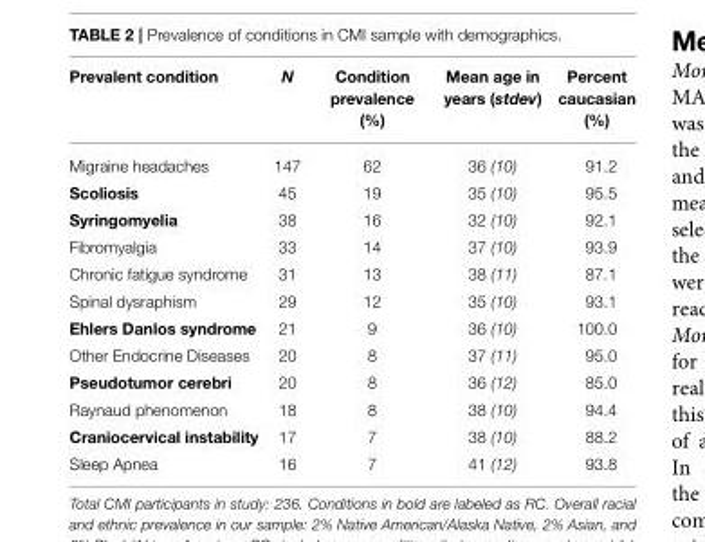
<table><thead><tr><td>Prevalent condition</td><td>N</td><td>Condition prevalence (%)</td><td>Mean age in years (stdev)</td><td>Percent caucasian (%)</td></tr></thead><tbody><tr><td>Migraine headaches</td><td>147</td><td>62</td><td>36 (10)</td><td>91.2</td></tr><tr><td>Scoliosis</td><td>45</td><td>19</td><td>35 (10)</td><td>95.5</td></tr><tr><td>Syringomyelia</td><td>38</td><td>16</td><td>32 (10)</td><td>92.1</td></tr><tr><td>Fibromyalgia</td><td>33</td><td>14</td><td>37 (10)</td><td>93.9</td></tr><tr><td>Chronic fatigue syndrome</td><td>31</td><td>13</td><td>38 (11)</td><td>87.1</td></tr><tr><td>Spinal dysraphism</td><td>29</td><td>12</td><td>35 (10)</td><td>93.1</td></tr><tr><td>Ehlers Danlos syndrome</td><td>21</td><td>9</td><td>36 (10)</td><td>100.0</td></tr><tr><td>Other Endocrine Diseases</td><td>20</td><td>8</td><td>37 (11)</td><td>95.0</td></tr><tr><td>Pseudotumor cerebri</td><td>20</td><td>8</td><td>36 (12)</td><td>85.0</td></tr><tr><td>Raynaud phenomenon</td><td>18</td><td>8</td><td>38 (10)</td><td>94.4</td></tr><tr><td>Craniocervical instability</td><td>17</td><td>7</td><td>38 (10)</td><td>88.2</td></tr><tr><td>Sleep Apnea</td><td>16</td><td>7</td><td>41 (12)</td><td>93.8</td></tr></tbody></table>